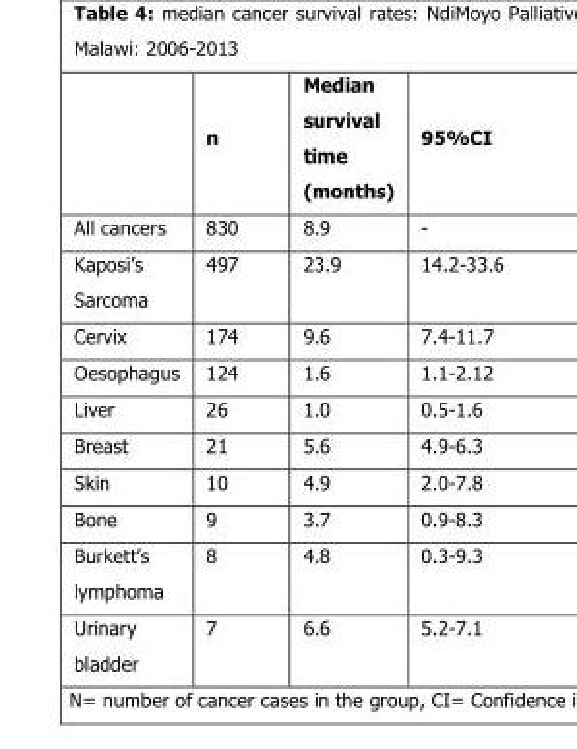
<table><thead><tr><td></td><td>n</td><td>Median survival time (months)</td><td>95%CI</td></tr></thead><tbody><tr><td>All cancers</td><td>830</td><td>8.9</td><td>-</td></tr><tr><td>Kaposi’s Sarcoma</td><td>497</td><td>23.9</td><td>14.2-33.6</td></tr><tr><td>Cervix</td><td>174</td><td>9.6</td><td>7.4-11.7</td></tr><tr><td>Oesophagus</td><td>124</td><td>1.6</td><td>1.1-2.12</td></tr><tr><td>Liver</td><td>26</td><td>1.0</td><td>0.5-1.6</td></tr><tr><td>Breast</td><td>21</td><td>5.6</td><td>4.9-6.3</td></tr><tr><td>Skin</td><td>10</td><td>4.9</td><td>2.0-7.8</td></tr><tr><td>Bone</td><td>9</td><td>3.7</td><td>0.9-8.3</td></tr><tr><td>Burkett’s lymphoma</td><td>8</td><td>4.8</td><td>0.3-9.3</td></tr><tr><td>Urinary bladder</td><td>7</td><td>6.6</td><td>5.2-7.1</td></tr></tbody></table>